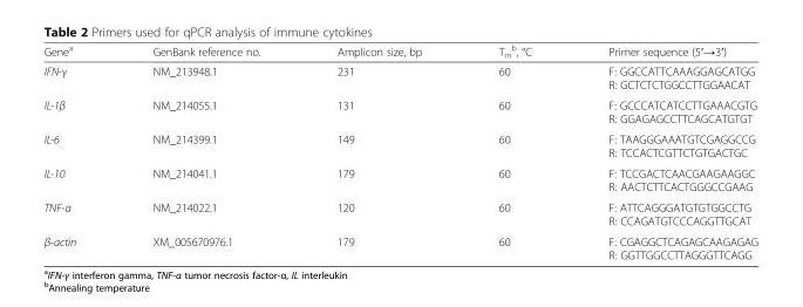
<table><thead><tr><td>Gene<sup>a</sup></td><td>GenBank reference no.</td><td>Amplicon size, bp</td><td>T<sub>m</sub> <sup>b</sup>, °C</td><td>Primer sequence (5′→3′)</td></tr></thead><tbody><tr><td>IFN-γ</td><td>NM_213948.1</td><td>231</td><td>60</td><td>F: GGCCATTCAAAGGAGCATGG R: GCTCTCTGGCCTTGGAACAT</td></tr><tr><td>IL-1β</td><td>NM_214055.1</td><td>131</td><td>60</td><td>F: GCCCATCATCCTTGAAACGTG R: GGAGAGCCTTCAGCATGTGT</td></tr><tr><td>IL-6</td><td>NM_214399.1</td><td>149</td><td>60</td><td>F: TAAGGGAAATGTCGAGGCCG R: TCCACTCGTTCTGTGACTGC</td></tr><tr><td>IL-10</td><td>NM_214041.1</td><td>179</td><td>60</td><td>F: TCCGACTCAACGAAGAAGGC R: AACTCTTCACTGGGCCGAAG</td></tr><tr><td>TNF-α</td><td>NM_214022.1</td><td>120</td><td>60</td><td>F: ATTCAGGGATGTGTGGCCTG R: CCAGATGTCCCAGGTTGCAT</td></tr><tr><td>β-actin</td><td>XM_005670976.1</td><td>179</td><td>60</td><td>F: CGAGGCTCAGAGCAAGAGAG R: GGTTGGCCTTAGGGTTCAGG</td></tr></tbody></table>